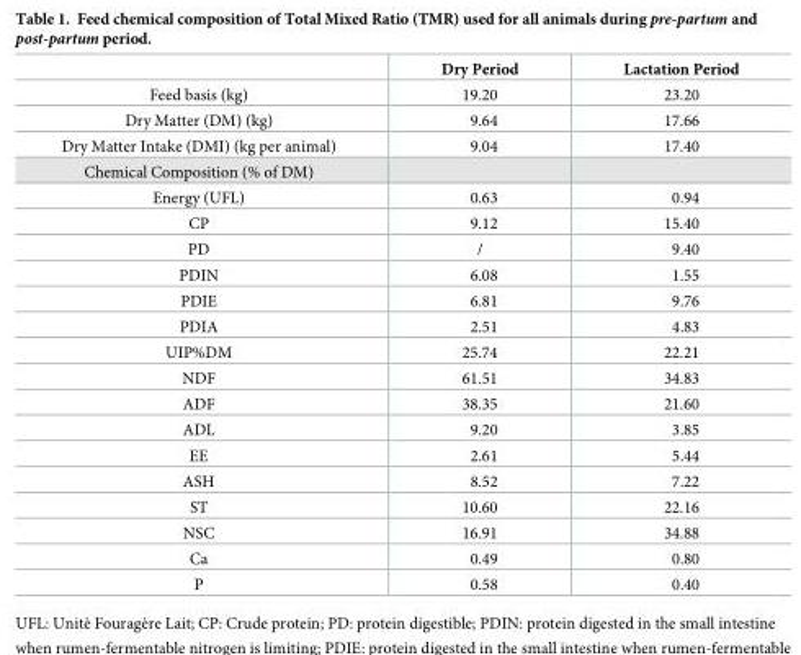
<table><thead><tr><td></td><td>Dry Period</td><td>Lactation Period</td></tr></thead><tbody><tr><td>Feed basis (kg)</td><td>19.20</td><td>23.20</td></tr><tr><td>Dry Matter (DM) (kg)</td><td>9.64</td><td>17.66</td></tr><tr><td>Dry Matter Intake (DMI) (kg per animal)</td><td>9.04</td><td>17.40</td></tr><tr><td colspan="3">Chemical Composition (% of DM)</td></tr><tr><td>Energy (UFL)</td><td>0.63</td><td>0.94</td></tr><tr><td>CP</td><td>9.12</td><td>15.40</td></tr><tr><td>PD</td><td>/</td><td>9.40</td></tr><tr><td>PDIN</td><td>6.08</td><td>1.55</td></tr><tr><td>PDIE</td><td>6.81</td><td>9.76</td></tr><tr><td>PDIA</td><td>2.51</td><td>4.83</td></tr><tr><td>UIP%DM</td><td>25.74</td><td>22.21</td></tr><tr><td>NDF</td><td>61.51</td><td>34.83</td></tr><tr><td>ADF</td><td>38.35</td><td>21.60</td></tr><tr><td>ADL</td><td>9.20</td><td>3.85</td></tr><tr><td>EE</td><td>2.61</td><td>5.44</td></tr><tr><td>ASH</td><td>8.52</td><td>7.22</td></tr><tr><td>ST</td><td>10.60</td><td>22.16</td></tr><tr><td>NSC</td><td>16.91</td><td>34.88</td></tr><tr><td>Ca</td><td>0.49</td><td>0.80</td></tr><tr><td>P</td><td>0.58</td><td>0.40</td></tr></tbody></table>